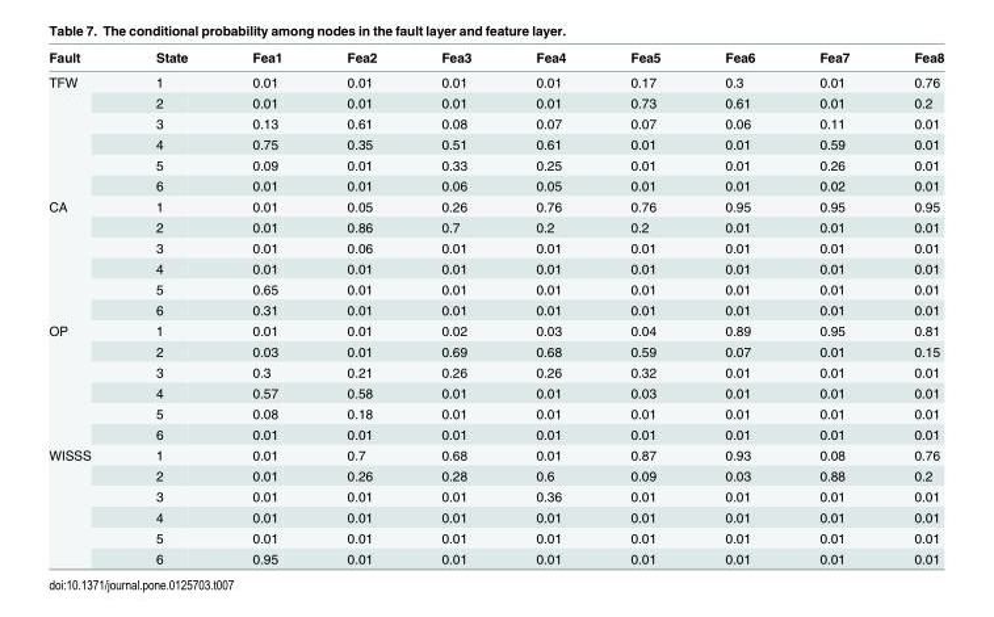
<table><thead><tr><td>Fault</td><td>State</td><td>Fea1</td><td>Fea2</td><td>Fea3</td><td>Fea4</td><td>Fea5</td><td>Fea6</td><td>Fea7</td><td>Fea8</td></tr></thead><tbody><tr><td rowspan="6">TFW</td><td>1</td><td>0.01</td><td>0.01</td><td>0.01</td><td>0.01</td><td>0.17</td><td>0.3</td><td>0.01</td><td>0.76</td></tr><tr><td>2</td><td>0.01</td><td>0.01</td><td>0.01</td><td>0.01</td><td>0.73</td><td>0.61</td><td>0.01</td><td>0.2</td></tr><tr><td>3</td><td>0.13</td><td>0.61</td><td>0.08</td><td>0.07</td><td>0.07</td><td>0.06</td><td>0.11</td><td>0.01</td></tr><tr><td>4</td><td>0.75</td><td>0.35</td><td>0.51</td><td>0.61</td><td>0.01</td><td>0.01</td><td>0.59</td><td>0.01</td></tr><tr><td>5</td><td>0.09</td><td>0.01</td><td>0.33</td><td>0.25</td><td>0.01</td><td>0.01</td><td>0.26</td><td>0.01</td></tr><tr><td>6</td><td>0.01</td><td>0.01</td><td>0.06</td><td>0.05</td><td>0.01</td><td>0.01</td><td>0.02</td><td>0.01</td></tr><tr><td rowspan="6">CA</td><td>1</td><td>0.01</td><td>0.05</td><td>0.26</td><td>0.76</td><td>0.76</td><td>0.95</td><td>0.95</td><td>0.95</td></tr><tr><td>2</td><td>0.01</td><td>0.86</td><td>0.7</td><td>0.2</td><td>0.2</td><td>0.01</td><td>0.01</td><td>0.01</td></tr><tr><td>3</td><td>0.01</td><td>0.06</td><td>0.01</td><td>0.01</td><td>0.01</td><td>0.01</td><td>0.01</td><td>0.01</td></tr><tr><td>4</td><td>0.01</td><td>0.01</td><td>0.01</td><td>0.01</td><td>0.01</td><td>0.01</td><td>0.01</td><td>0.01</td></tr><tr><td>5</td><td>0.65</td><td>0.01</td><td>0.01</td><td>0.01</td><td>0.01</td><td>0.01</td><td>0.01</td><td>0.01</td></tr><tr><td>6</td><td>0.31</td><td>0.01</td><td>0.01</td><td>0.01</td><td>0.01</td><td>0.01</td><td>0.01</td><td>0.01</td></tr><tr><td rowspan="6">OP</td><td>1</td><td>0.01</td><td>0.01</td><td>0.02</td><td>0.03</td><td>0.04</td><td>0.89</td><td>0.95</td><td>0.81</td></tr><tr><td>2</td><td>0.03</td><td>0.01</td><td>0.69</td><td>0.68</td><td>0.59</td><td>0.07</td><td>0.01</td><td>0.15</td></tr><tr><td>3</td><td>0.3</td><td>0.21</td><td>0.26</td><td>0.26</td><td>0.32</td><td>0.01</td><td>0.01</td><td>0.01</td></tr><tr><td>4</td><td>0.57</td><td>0.58</td><td>0.01</td><td>0.01</td><td>0.03</td><td>0.01</td><td>0.01</td><td>0.01</td></tr><tr><td>5</td><td>0.08</td><td>0.18</td><td>0.01</td><td>0.01</td><td>0.01</td><td>0.01</td><td>0.01</td><td>0.01</td></tr><tr><td>6</td><td>0.01</td><td>0.01</td><td>0.01</td><td>0.01</td><td>0.01</td><td>0.01</td><td>0.01</td><td>0.01</td></tr><tr><td rowspan="6">WISSS</td><td>1</td><td>0.01</td><td>0.7</td><td>0.68</td><td>0.01</td><td>0.87</td><td>0.93</td><td>0.08</td><td>0.76</td></tr><tr><td>2</td><td>0.01</td><td>0.26</td><td>0.28</td><td>0.6</td><td>0.09</td><td>0.03</td><td>0.88</td><td>0.2</td></tr><tr><td>3</td><td>0.01</td><td>0.01</td><td>0.01</td><td>0.36</td><td>0.01</td><td>0.01</td><td>0.01</td><td>0.01</td></tr><tr><td>4</td><td>0.01</td><td>0.01</td><td>0.01</td><td>0.01</td><td>0.01</td><td>0.01</td><td>0.01</td><td>0.01</td></tr><tr><td>5</td><td>0.01</td><td>0.01</td><td>0.01</td><td>0.01</td><td>0.01</td><td>0.01</td><td>0.01</td><td>0.01</td></tr><tr><td>6</td><td>0.95</td><td>0.01</td><td>0.01</td><td>0.01</td><td>0.01</td><td>0.01</td><td>0.01</td><td>0.01</td></tr></tbody></table>